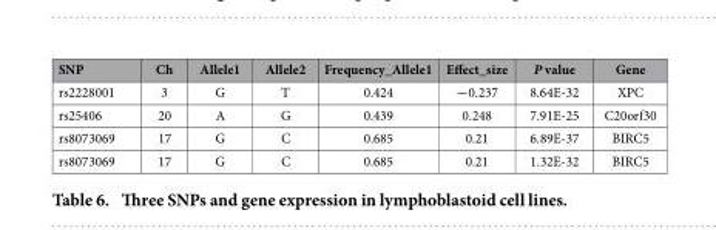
<table><thead><tr><td>SNP</td><td>Ch</td><td>Allele1</td><td>Allele2</td><td>Frequency_Allele1</td><td>Effect_size</td><td>P value</td><td>Gene</td></tr></thead><tbody><tr><td>rs2228001</td><td>3</td><td>G</td><td>T</td><td>0.424</td><td>−0.237</td><td>8.64E-32</td><td>XPC</td></tr><tr><td>rs25406</td><td>20</td><td>A</td><td>G</td><td>0.439</td><td>0.248</td><td>7.91E-25</td><td>C20orf30</td></tr><tr><td>rs8073069</td><td>17</td><td>G</td><td>C</td><td>0.685</td><td>0.21</td><td>6.89E-37</td><td>BIRC5</td></tr><tr><td>rs8073069</td><td>17</td><td>G</td><td>C</td><td>0.685</td><td>0.21</td><td>1.32E-32</td><td>BIRC5</td></tr></tbody></table>